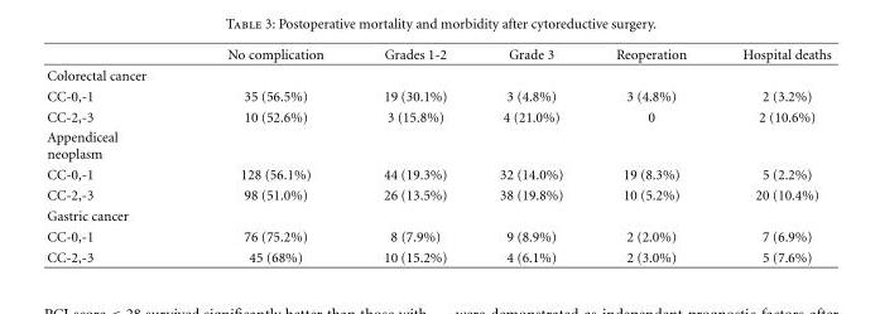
<table><thead><tr><td></td><td>No complication</td><td>Grades 1-2</td><td>Grade 3</td><td>Reoperation</td><td>Hospital deaths</td></tr></thead><tbody><tr><td colspan="6">Colorectal cancer</td></tr><tr><td>CC-0,-1</td><td>35 (56.5%)</td><td>19 (30.1%)</td><td>3 (4.8%)</td><td>3 (4.8%)</td><td>2 (3.2%)</td></tr><tr><td>CC-2,-3</td><td>10 (52.6%)</td><td>3 (15.8%)</td><td>4 (21.0%)</td><td>0</td><td>2 (10.6%)</td></tr><tr><td colspan="6">Appendiceal neoplasm</td></tr><tr><td>CC-0,-1</td><td>128 (56.1%)</td><td>44 (19.3%)</td><td>32 (14.0%)</td><td>19 (8.3%)</td><td>5 (2.2%)</td></tr><tr><td>CC-2,-3</td><td>98 (51.0%)</td><td>26 (13.5%)</td><td>38 (19.8%)</td><td>10 (5.2%)</td><td>20 (10.4%)</td></tr><tr><td colspan="6">Gastric cancer</td></tr><tr><td>CC-0,-1</td><td>76 (75.2%)</td><td>8 (7.9%)</td><td>9 (8.9%)</td><td>2 (2.0%)</td><td>7 (6.9%)</td></tr><tr><td>CC-2,-3</td><td>45 (68%)</td><td>10 (15.2%)</td><td>4 (6.1%)</td><td>2 (3.0%)</td><td>5 (7.6%)</td></tr></tbody></table>